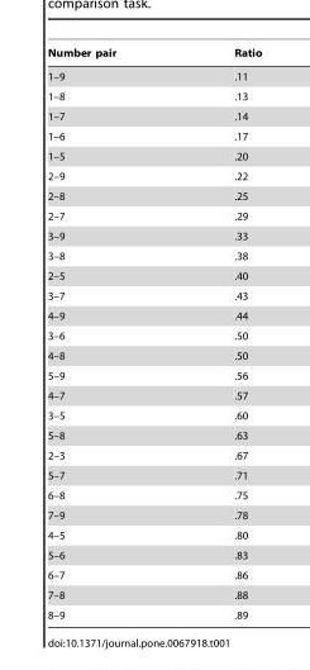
<table><thead><tr><td>Number pair</td><td>Ratio</td></tr></thead><tbody><tr><td>1–9</td><td>.11</td></tr><tr><td>1–8</td><td>.13</td></tr><tr><td>1–7</td><td>.14</td></tr><tr><td>1–6</td><td>.17</td></tr><tr><td>1–5</td><td>.20</td></tr><tr><td>2–9</td><td>.22</td></tr><tr><td>2–8</td><td>.25</td></tr><tr><td>2–7</td><td>.29</td></tr><tr><td>3–9</td><td>.33</td></tr><tr><td>3–8</td><td>.38</td></tr><tr><td>2–5</td><td>.40</td></tr><tr><td>3–7</td><td>.43</td></tr><tr><td>4–9</td><td>.44</td></tr><tr><td>3–6</td><td>.50</td></tr><tr><td>4–8</td><td>.50</td></tr><tr><td>5–9</td><td>.56</td></tr><tr><td>4–7</td><td>.57</td></tr><tr><td>3–5</td><td>.60</td></tr><tr><td>5–8</td><td>.63</td></tr><tr><td>2–3</td><td>.67</td></tr><tr><td>5–7</td><td>.71</td></tr><tr><td>6–8</td><td>.75</td></tr><tr><td>7–9</td><td>.78</td></tr><tr><td>4–5</td><td>.80</td></tr><tr><td>5–6</td><td>.83</td></tr><tr><td>6–7</td><td>.86</td></tr><tr><td>7–8</td><td>.88</td></tr><tr><td>8–9</td><td>.89</td></tr></tbody></table>